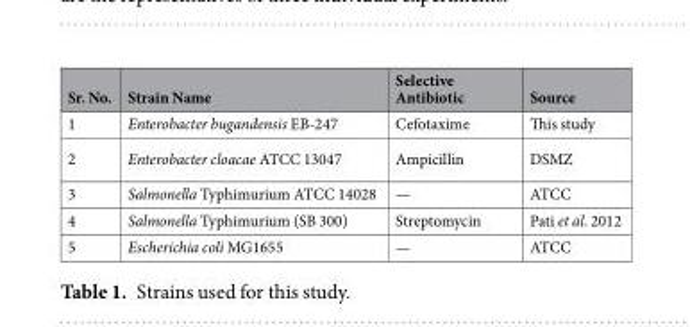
<table><thead><tr><td>Sr. No.</td><td>Strain Name</td><td>Selective Antibiotic</td><td>Source</td></tr></thead><tbody><tr><td>1</td><td>Enterobacter bugandensis EB-247</td><td>Cefotaxime</td><td>This study</td></tr><tr><td>2</td><td>Enterobacter cloacae ATCC 13047</td><td>Ampicillin</td><td>DSMZ</td></tr><tr><td>3</td><td>Salmonella Typhimurium ATCC 14028</td><td>—</td><td>ATCC</td></tr><tr><td>4</td><td>Salmonella Typhimurium (SB 300)</td><td>Streptomycin</td><td>Pati et al. 2012</td></tr><tr><td>5</td><td>Escherichia coli MG1655</td><td>—</td><td>ATCC</td></tr></tbody></table>